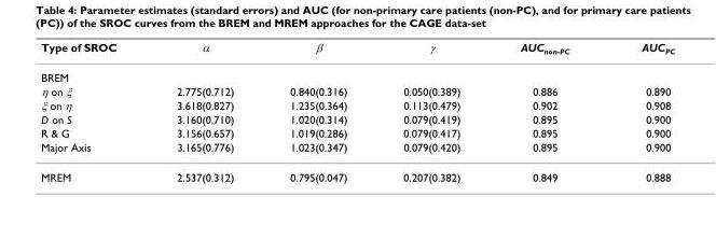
<table><thead><tr><td>Type of SROC</td><td>α</td><td>β</td><td>γ</td><td>AUC<sub>non-PC</sub></td><td>AUC<sub>PC</sub></td></tr></thead><tbody><tr><td colspan="6">BREM</td></tr><tr><td>η on ξ</td><td>2.775(0.712)</td><td>0.840(0.316)</td><td>0.050(0.389)</td><td>0.886</td><td>0.890</td></tr><tr><td>ξ on η</td><td>3.618(0.827)</td><td>1.235(0.364)</td><td>0.113(0.479)</td><td>0.902</td><td>0.908</td></tr><tr><td>D on S</td><td>3.160(0.710)</td><td>1.020(0.314)</td><td>0.079(0.419)</td><td>0.895</td><td>0.900</td></tr><tr><td>R &amp; G</td><td>3.156(0.657)</td><td>1.019(0.286)</td><td>0.079(0.417)</td><td>0.895</td><td>0.900</td></tr><tr><td>Major Axis</td><td>3.165(0.776)</td><td>1.023(0.347)</td><td>0.079(0.420)</td><td>0.895</td><td>0.900</td></tr><tr><td>MREM</td><td>2.537(0.312)</td><td>0.795(0.047)</td><td>0.207(0.382)</td><td>0.849</td><td>0.888</td></tr></tbody></table>